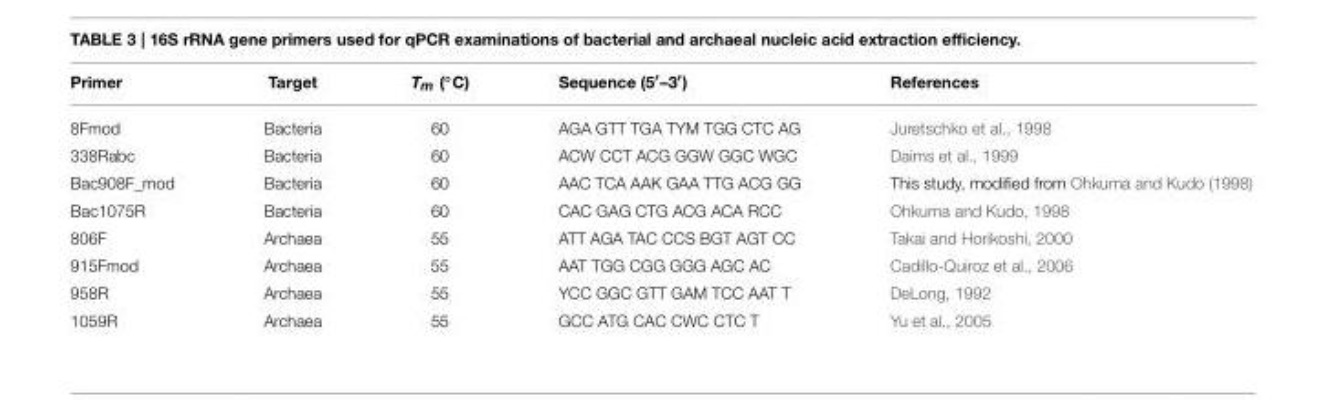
<table><thead><tr><td>Primer</td><td>Target</td><td>Tm (◦C)</td><td>Sequence (5′–3′)</td><td>References</td></tr></thead><tbody><tr><td>8Fmod</td><td>Bacteria</td><td>60</td><td>AGA GTT TGA TYM TGG CTC AG</td><td>Juretschko et al., 1998</td></tr><tr><td>338Rabc</td><td>Bacteria</td><td>60</td><td>ACW CCT ACG GGW GGC WGC</td><td>Daims et al., 1999</td></tr><tr><td>Bac908F_mod</td><td>Bacteria</td><td>60</td><td>AAC TCA AAK GAA TTG ACG GG</td><td>This study, modified from Ohkuma and Kudo (1998)</td></tr><tr><td>Bac1075R</td><td>Bacteria</td><td>60</td><td>CAC GAG CTG ACG ACA RCC</td><td>Ohkuma and Kudo, 1998</td></tr><tr><td>806F</td><td>Archaea</td><td>55</td><td>ATT AGA TAC CCS BGT AGT CC</td><td>Takai and Horikoshi, 2000</td></tr><tr><td>915Fmod</td><td>Archaea</td><td>55</td><td>AAT TGG CGG GGG AGC AC</td><td>Cadillo-Quiroz et al., 2006</td></tr><tr><td>958R</td><td>Archaea</td><td>55</td><td>YCC GGC GTT GAM TCC AAT T</td><td>DeLong, 1992</td></tr><tr><td>1059R</td><td>Archaea</td><td>55</td><td>GCC ATG CAC CWC CTC T</td><td>Yu et al., 2005</td></tr></tbody></table>